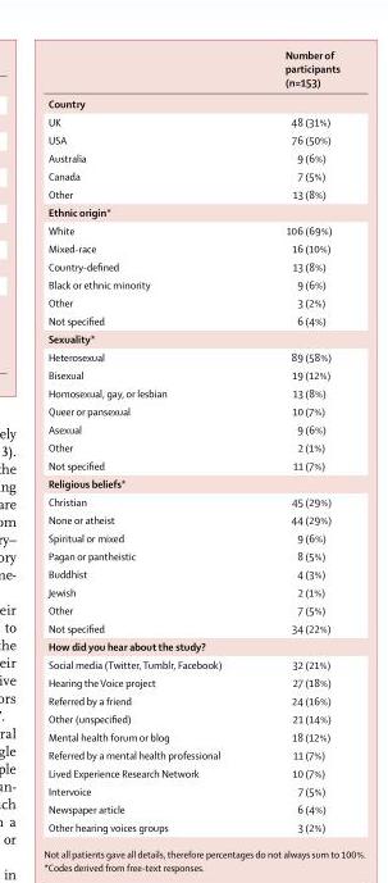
<table><thead><tr><td></td><td>Number of participants (n=153)</td></tr></thead><tbody><tr><td colspan="2">Country</td></tr><tr><td>UK</td><td>48 (31%)</td></tr><tr><td>USA</td><td>76 (50%)</td></tr><tr><td>Australia</td><td>9 (6%)</td></tr><tr><td>Canada</td><td>7 (5%)</td></tr><tr><td>Other</td><td>13 (8%)</td></tr><tr><td colspan="2">Ethnic origin*</td></tr><tr><td>White</td><td>106 (69%)</td></tr><tr><td>Mixed-race</td><td>16 (10%)</td></tr><tr><td>Country-defi ned</td><td>13 (8%)</td></tr><tr><td>Black or ethnic minority</td><td>9 (6%)</td></tr><tr><td>Other</td><td>3 (2%)</td></tr><tr><td>Not specifi ed</td><td>6 (4%)</td></tr><tr><td colspan="2">Sexuality*</td></tr><tr><td>Heterosexual</td><td>89 (58%)</td></tr><tr><td>Bisexual</td><td>19 (12%)</td></tr><tr><td>Homosexual, gay, or lesbian</td><td>13 (8%)</td></tr><tr><td>Queer or pansexual</td><td>10 (7%)</td></tr><tr><td>Asexual</td><td>9 (6%)</td></tr><tr><td>Other</td><td>2 (1%)</td></tr><tr><td>Not specifi ed</td><td>11 (7%)</td></tr><tr><td colspan="2">Religious beliefs*</td></tr><tr><td>Christian</td><td>45 (29%)</td></tr><tr><td>None or atheist</td><td>44 (29%)</td></tr><tr><td>Spiritual or mixed</td><td>9 (6%)</td></tr><tr><td>Pagan or pantheistic</td><td>8 (5%)</td></tr><tr><td>Buddhist</td><td>4 (3%)</td></tr><tr><td>Jewish</td><td>2 (1%)</td></tr><tr><td>Other</td><td>7 (5%)</td></tr><tr><td>Not specifi ed</td><td>34 (22%)</td></tr><tr><td colspan="2">How did you hear about the study?</td></tr><tr><td>Social media (Twitter, Tumblr, Facebook)</td><td>32 (21%)</td></tr><tr><td>Hearing the Voice project</td><td>27 (18%)</td></tr><tr><td>Referred by a friend</td><td>24 (16%)</td></tr><tr><td>Other (unspecifi ed)</td><td>21 (14%)</td></tr><tr><td>Mental health forum or blog</td><td>18 (12%)</td></tr><tr><td>Referred by a mental health professional</td><td>11 (7%)</td></tr><tr><td>Lived Experience Research Network</td><td>10 (7%)</td></tr><tr><td>Intervoice</td><td>7 (5%)</td></tr><tr><td>Newspaper article</td><td>6 (4%)</td></tr><tr><td>Other hearing voices groups</td><td>3 (2%)</td></tr></tbody></table>